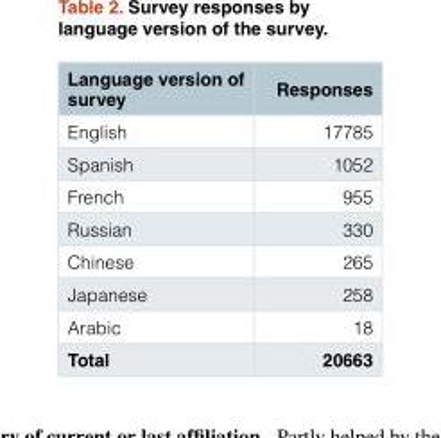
<table><thead><tr><td>Language version of survey</td><td>Responses</td></tr></thead><tbody><tr><td>English</td><td>17785</td></tr><tr><td>Spanish</td><td>1052</td></tr><tr><td>French</td><td>955</td></tr><tr><td>Russian</td><td>330</td></tr><tr><td>Chinese</td><td>265</td></tr><tr><td>Japanese</td><td>258</td></tr><tr><td>Arabic</td><td>18</td></tr><tr><td>Total</td><td>20663</td></tr></tbody></table>